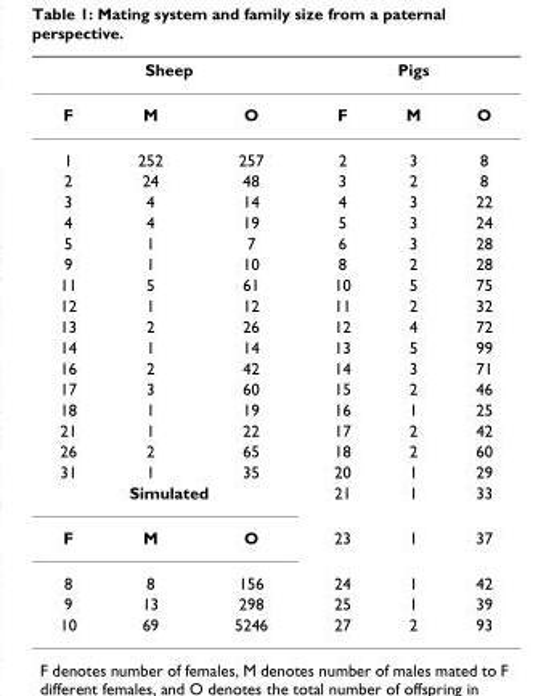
<table><thead><tr><td colspan="3">Sheep</td><td colspan="3">Pigs</td></tr><tr><td>F</td><td>M</td><td>O</td><td>F</td><td>M</td><td>O</td></tr></thead><tbody><tr><td>1</td><td>252</td><td>257</td><td>2</td><td>3</td><td>8</td></tr><tr><td>2</td><td>24</td><td>48</td><td>3</td><td>2</td><td>8</td></tr><tr><td>3</td><td>4</td><td>14</td><td>4</td><td>3</td><td>22</td></tr><tr><td>4</td><td>4</td><td>19</td><td>5</td><td>3</td><td>24</td></tr><tr><td>5</td><td>1</td><td>7</td><td>6</td><td>3</td><td>28</td></tr><tr><td>9</td><td>1</td><td>10</td><td>8</td><td>2</td><td>28</td></tr><tr><td>11</td><td>5</td><td>61</td><td>10</td><td>5</td><td>75</td></tr><tr><td>12</td><td>1</td><td>12</td><td>11</td><td>2</td><td>32</td></tr><tr><td>13</td><td>2</td><td>26</td><td>12</td><td>4</td><td>72</td></tr><tr><td>14</td><td>1</td><td>14</td><td>13</td><td>5</td><td>99</td></tr><tr><td>16</td><td>2</td><td>42</td><td>14</td><td>3</td><td>71</td></tr><tr><td>17</td><td>3</td><td>60</td><td>15</td><td>2</td><td>46</td></tr><tr><td>18</td><td>1</td><td>19</td><td>16</td><td>1</td><td>25</td></tr><tr><td>21</td><td>1</td><td>22</td><td>17</td><td>2</td><td>42</td></tr><tr><td>26</td><td>2</td><td>65</td><td>18</td><td>2</td><td>60</td></tr><tr><td>31</td><td>1</td><td>35</td><td>20</td><td>1</td><td>29</td></tr><tr><td colspan="3">Simulated</td><td>21</td><td>1</td><td>33</td></tr><tr><td>F</td><td>M</td><td>O</td><td>23</td><td>1</td><td>37</td></tr><tr><td>8</td><td>8</td><td>156</td><td>24</td><td>1</td><td>42</td></tr><tr><td>9</td><td>13</td><td>298</td><td>25</td><td>1</td><td>39</td></tr><tr><td>10</td><td>69</td><td>5246</td><td>27</td><td>2</td><td>93</td></tr></tbody></table>